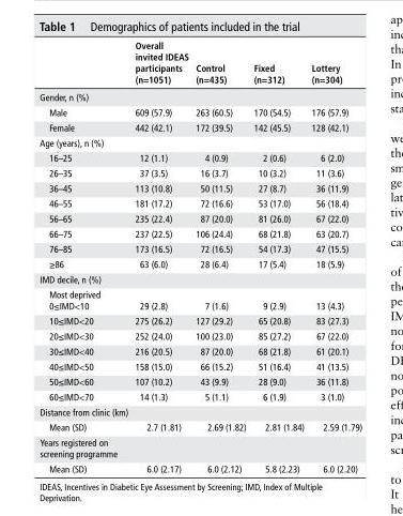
<table><thead><tr><td></td><td>Overall invited IdeAs participants (n=1051)</td><td>Control (n=435)</td><td>Fixed (n=312)</td><td>lottery (n=304)</td></tr></thead><tbody><tr><td colspan="5">Gender, n (%)</td></tr><tr><td>Male</td><td>609 (57.9)</td><td>263 (60.5)</td><td>170 (54.5)</td><td>176 (57.9)</td></tr><tr><td>Female</td><td>442 (42.1)</td><td>172 (39.5)</td><td>142 (45.5)</td><td>128 (42.1)</td></tr><tr><td colspan="5">Age (years), n (%)</td></tr><tr><td>16–25</td><td>12 (1.1)</td><td>4 (0.9)</td><td>2 (0.6)</td><td>6 (2.0)</td></tr><tr><td>26–35</td><td>37 (3.5)</td><td>16 (3.7)</td><td>10 (3.2)</td><td>11 (3.6)</td></tr><tr><td>36–45</td><td>113 (10.8)</td><td>50 (11.5)</td><td>27 (8.7)</td><td>36 (11.9)</td></tr><tr><td>46–55</td><td>181 (17.2)</td><td>72 (16.6)</td><td>53 (17.0)</td><td>56 (18.4)</td></tr><tr><td>56–65</td><td>235 (22.4)</td><td>87 (20.0)</td><td>81 (26.0)</td><td>67 (22.0)</td></tr><tr><td>66–75</td><td>237 (22.5)</td><td>106 (24.4)</td><td>68 (21.8)</td><td>63 (20.7)</td></tr><tr><td>76–85</td><td>173 (16.5)</td><td>72 (16.5)</td><td>54 (17.3)</td><td>47 (15.5)</td></tr><tr><td>≥86</td><td>63 (6.0)</td><td>28 (6.4)</td><td>17 (5.4)</td><td>18 (5.9)</td></tr><tr><td colspan="5">IMD decile, n (%)</td></tr><tr><td>Most deprived 0≤IMD&lt;10</td><td>29 (2.8)</td><td>7 (1.6)</td><td>9 (2.9)</td><td>13 (4.3)</td></tr><tr><td>10≤IMD&lt;20</td><td>275 (26.2)</td><td>127 (29.2)</td><td>65 (20.8)</td><td>83 (27.3)</td></tr><tr><td>20≤IMD&lt;30</td><td>252 (24.0)</td><td>100 (23.0)</td><td>85 (27.2)</td><td>67 (22.0)</td></tr><tr><td>30≤IMD&lt;40</td><td>216 (20.5)</td><td>87 (20.0)</td><td>68 (21.8)</td><td>61 (20.1)</td></tr><tr><td>40≤IMD&lt;50</td><td>158 (15.0)</td><td>66 (15.2)</td><td>51 (16.4)</td><td>41 (13.5)</td></tr><tr><td>50≤IMD&lt;60</td><td>107 (10.2)</td><td>43 (9.9)</td><td>28 (9.0)</td><td>36 (11.8)</td></tr><tr><td>60≤IMD&lt;70</td><td>14 (1.3)</td><td>5 (1.1)</td><td>6 (1.9)</td><td>3 (1.0)</td></tr><tr><td colspan="5">Distance from clinic (km)</td></tr><tr><td>Mean (SD)</td><td>2.7 (1.81)</td><td>2.69 (1.82)</td><td>2.81 (1.84)</td><td>2.59 (1.79)</td></tr><tr><td colspan="5">Years registered on screening programme</td></tr><tr><td>Mean (SD)</td><td>6.0 (2.17)</td><td>6.0 (2.12)</td><td>5.8 (2.23)</td><td>6.0 (2.20)</td></tr></tbody></table>